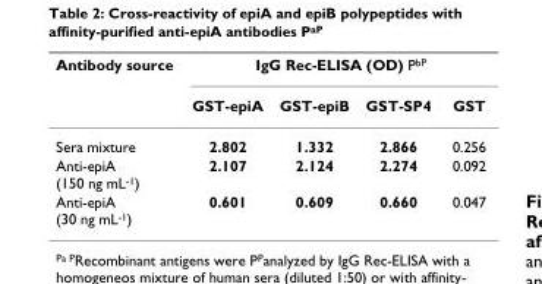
<table><thead><tr><td rowspan="2">Antibody source</td><td colspan="4">IgG Rec-ELISA (OD) P<sup>bP</sup></td></tr><tr><td>GST-epiA</td><td>GST-epiB</td><td>GST-SP4</td><td>GST</td></tr></thead><tbody><tr><td>Sera mixture</td><td>2.802</td><td>1.332</td><td>2.866</td><td>0.256</td></tr><tr><td>Anti-epiA (150 ng mL<sup>-1</sup>)</td><td>2.107</td><td>2.124</td><td>2.274</td><td>0.092</td></tr><tr><td>Anti-epiA (30 ng mL<sup>-1</sup>)</td><td>0.601</td><td>0.609</td><td>0.660</td><td>0.047</td></tr></tbody></table>